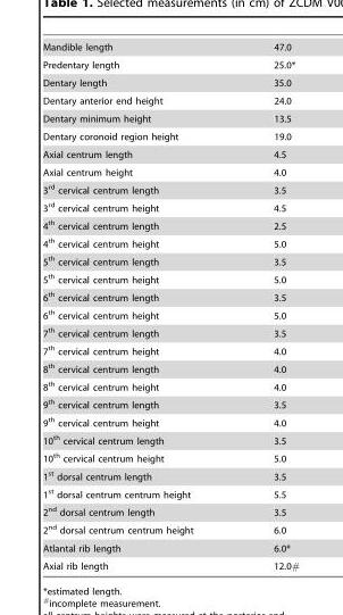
<table><tbody><tr><td>Mandible length</td><td>47.0</td></tr><tr><td>Predentary length</td><td>25.0*</td></tr><tr><td>Dentary length</td><td>35.0</td></tr><tr><td>Dentary anterior end height</td><td>24.0</td></tr><tr><td>Dentary minimum height</td><td>13.5</td></tr><tr><td>Dentary coronoid region height</td><td>19.0</td></tr><tr><td>Axial centrum length</td><td>4.5</td></tr><tr><td>Axial centrum height</td><td>4.0</td></tr><tr><td>3<sup>rd</sup> cervical centrum length</td><td>3.5</td></tr><tr><td>3<sup>rd</sup> cervical centrum height</td><td>4.5</td></tr><tr><td>4<sup>th</sup> cervical centrum length</td><td>2.5</td></tr><tr><td>4<sup>th</sup> cervical centrum height</td><td>5.0</td></tr><tr><td>5<sup>th</sup> cervical centrum length</td><td>3.5</td></tr><tr><td>5<sup>th</sup> cervical centrum height</td><td>5.0</td></tr><tr><td>6<sup>th</sup> cervical centrum length</td><td>3.5</td></tr><tr><td>6<sup>th</sup> cervical centrum height</td><td>5.0</td></tr><tr><td>7<sup>th</sup> cervical centrum length</td><td>3.5</td></tr><tr><td>7<sup>th</sup> cervical centrum height</td><td>4.0</td></tr><tr><td>8<sup>th</sup> cervical centrum length</td><td>4.0</td></tr><tr><td>8<sup>th</sup> cervical centrum height</td><td>4.0</td></tr><tr><td>9<sup>th</sup> cervical centrum length</td><td>3.5</td></tr><tr><td>9<sup>th</sup> cervical centrum height</td><td>4.0</td></tr><tr><td>10<sup>th</sup> cervical centrum length</td><td>3.5</td></tr><tr><td>10<sup>th</sup> cervical centrum height</td><td>5.0</td></tr><tr><td>1<sup>st</sup> dorsal centrum length</td><td>3.5</td></tr><tr><td>1<sup>st</sup> dorsal centrum centrum height</td><td>5.5</td></tr><tr><td>2<sup>nd</sup> dorsal centrum length</td><td>3.5</td></tr><tr><td>2<sup>nd</sup> dorsal centrum centrum height</td><td>6.0</td></tr><tr><td>Atlantal rib length</td><td>6.0*</td></tr><tr><td>Axial rib length</td><td>12.0#</td></tr></tbody></table>